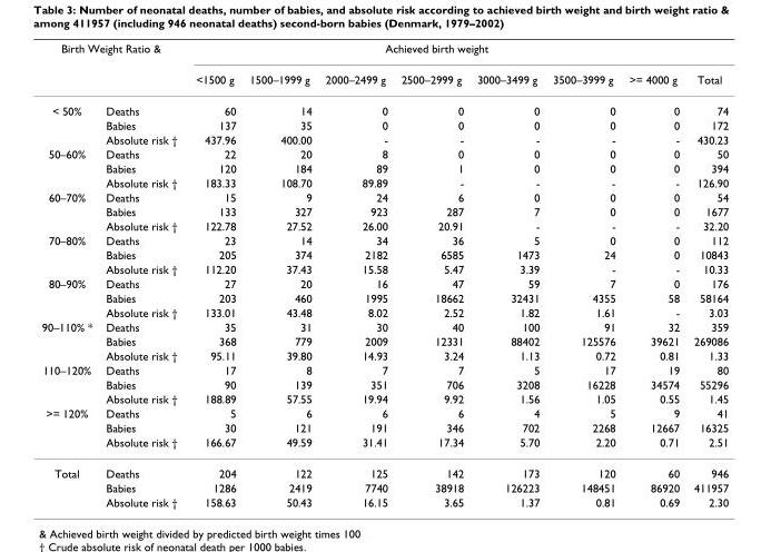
<table><thead><tr><td colspan="2">Birth Weight Ratio &amp;</td><td colspan="7">Achieved birth weight</td><td rowspan="2">Total</td></tr><tr><td></td><td></td><td>&lt;1500 g</td><td>1500–1999 g</td><td>2000–2499 g</td><td>2500–2999 g</td><td>3000–3499 g</td><td>3500–3999 g</td><td>&gt;= 4000 g</td></tr></thead><tbody><tr><td rowspan="3">&lt; 50%</td><td>Deaths</td><td>60</td><td>14</td><td>0</td><td>0</td><td>0</td><td>0</td><td>0</td><td>74</td></tr><tr><td>Babies</td><td>137</td><td>35</td><td>0</td><td>0</td><td>0</td><td>0</td><td>0</td><td>172</td></tr><tr><td>Absolute risk †</td><td>437.96</td><td>400.00</td><td>-</td><td>-</td><td>-</td><td>-</td><td>-</td><td>430.23</td></tr><tr><td rowspan="3">50–60%</td><td>Deaths</td><td>22</td><td>20</td><td>8</td><td>0</td><td>0</td><td>0</td><td>0</td><td>50</td></tr><tr><td>Babies</td><td>120</td><td>184</td><td>89</td><td>1</td><td>0</td><td>0</td><td>0</td><td>394</td></tr><tr><td>Absolute risk †</td><td>183.33</td><td>108.70</td><td>89.89</td><td>-</td><td>-</td><td>-</td><td>-</td><td>126.90</td></tr><tr><td rowspan="3">60–70%</td><td>Deaths</td><td>15</td><td>9</td><td>24</td><td>6</td><td>0</td><td>0</td><td>0</td><td>54</td></tr><tr><td>Babies</td><td>133</td><td>327</td><td>923</td><td>287</td><td>7</td><td>0</td><td>0</td><td>1677</td></tr><tr><td>Absolute risk †</td><td>122.78</td><td>27.52</td><td>26.00</td><td>20.91</td><td>-</td><td>-</td><td>-</td><td>32.20</td></tr><tr><td rowspan="3">70–80%</td><td>Deaths</td><td>23</td><td>14</td><td>34</td><td>36</td><td>5</td><td>0</td><td>0</td><td>112</td></tr><tr><td>Babies</td><td>205</td><td>374</td><td>2182</td><td>6585</td><td>1473</td><td>24</td><td>0</td><td>10843</td></tr><tr><td>Absolute risk †</td><td>112.20</td><td>37.43</td><td>15.58</td><td>5.47</td><td>3.39</td><td>-</td><td>-</td><td>10.33</td></tr><tr><td rowspan="3">80–90%</td><td>Deaths</td><td>27</td><td>20</td><td>16</td><td>47</td><td>59</td><td>7</td><td>0</td><td>176</td></tr><tr><td>Babies</td><td>203</td><td>460</td><td>1995</td><td>18662</td><td>32431</td><td>4355</td><td>58</td><td>58164</td></tr><tr><td>Absolute risk †</td><td>133.01</td><td>43.48</td><td>8.02</td><td>2.52</td><td>1.82</td><td>1.61</td><td>-</td><td>3.03</td></tr><tr><td rowspan="3">90–110% *</td><td>Deaths</td><td>35</td><td>31</td><td>30</td><td>40</td><td>100</td><td>91</td><td>32</td><td>359</td></tr><tr><td>Babies</td><td>368</td><td>779</td><td>2009</td><td>12331</td><td>88402</td><td>125576</td><td>39621</td><td>269086</td></tr><tr><td>Absolute risk †</td><td>95.11</td><td>39.80</td><td>14.93</td><td>3.24</td><td>1.13</td><td>0.72</td><td>0.81</td><td>1.33</td></tr><tr><td rowspan="3">110–120%</td><td>Deaths</td><td>17</td><td>8</td><td>7</td><td>7</td><td>5</td><td>17</td><td>19</td><td>80</td></tr><tr><td>Babies</td><td>90</td><td>139</td><td>351</td><td>706</td><td>3208</td><td>16228</td><td>34574</td><td>55296</td></tr><tr><td>Absolute risk †</td><td>188.89</td><td>57.55</td><td>19.94</td><td>9.92</td><td>1.56</td><td>1.05</td><td>0.55</td><td>1.45</td></tr><tr><td rowspan="3">&gt;= 120%</td><td>Deaths</td><td>5</td><td>6</td><td>6</td><td>6</td><td>4</td><td>5</td><td>9</td><td>41</td></tr><tr><td>Babies</td><td>30</td><td>121</td><td>191</td><td>346</td><td>702</td><td>2268</td><td>12667</td><td>16325</td></tr><tr><td>Absolute risk †</td><td>166.67</td><td>49.59</td><td>31.41</td><td>17.34</td><td>5.70</td><td>2.20</td><td>0.71</td><td>2.51</td></tr><tr><td rowspan="3">Total</td><td>Deaths</td><td>204</td><td>122</td><td>125</td><td>142</td><td>173</td><td>120</td><td>60</td><td>946</td></tr><tr><td>Babies</td><td>1286</td><td>2419</td><td>7740</td><td>38918</td><td>126223</td><td>148451</td><td>86920</td><td>411957</td></tr><tr><td>Absolute risk †</td><td>158.63</td><td>50.43</td><td>16.15</td><td>3.65</td><td>1.37</td><td>0.81</td><td>0.69</td><td>2.30</td></tr></tbody></table>